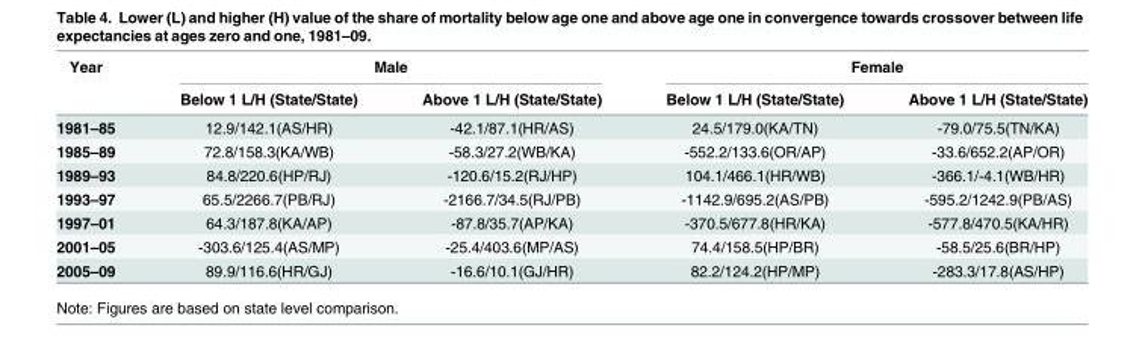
<table><thead><tr><td rowspan="2">Year</td><td colspan="2">Male</td><td colspan="2">Female</td></tr><tr><td>Below 1 L/H (State/State)</td><td>Above 1 L/H (State/State)</td><td>Below 1 L/H (State/State)</td><td>Above 1 L/H (State/State)</td></tr></thead><tbody><tr><td>1981–85</td><td>12.9/142.1(AS/HR)</td><td>-42.1/87.1(HR/AS)</td><td>24.5/179.0(KA/TN)</td><td>-79.0/75.5(TN/KA)</td></tr><tr><td>1985–89</td><td>72.8/158.3(KA/WB)</td><td>-58.3/27.2(WB/KA)</td><td>-552.2/133.6(OR/AP)</td><td>-33.6/652.2(AP/OR)</td></tr><tr><td>1989–93</td><td>84.8/220.6(HP/RJ)</td><td>-120.6/15.2(RJ/HP)</td><td>104.1/466.1(HR/WB)</td><td>-366.1/-4.1(WB/HR)</td></tr><tr><td>1993–97</td><td>65.5/2266.7(PB/RJ)</td><td>-2166.7/34.5(RJ/PB)</td><td>-1142.9/695.2(AS/PB)</td><td>-595.2/1242.9(PB/AS)</td></tr><tr><td>1997–01</td><td>64.3/187.8(KA/AP)</td><td>-87.8/35.7(AP/KA)</td><td>-370.5/677.8(HR/KA)</td><td>-577.8/470.5(KA/HR)</td></tr><tr><td>2001–05</td><td>-303.6/125.4(AS/MP)</td><td>-25.4/403.6(MP/AS)</td><td>74.4/158.5(HP/BR)</td><td>-58.5/25.6(BR/HP)</td></tr><tr><td>2005–09</td><td>89.9/116.6(HR/GJ)</td><td>-16.6/10.1(GJ/HR)</td><td>82.2/124.2(HP/MP)</td><td>-283.3/17.8(AS/HP)</td></tr></tbody></table>